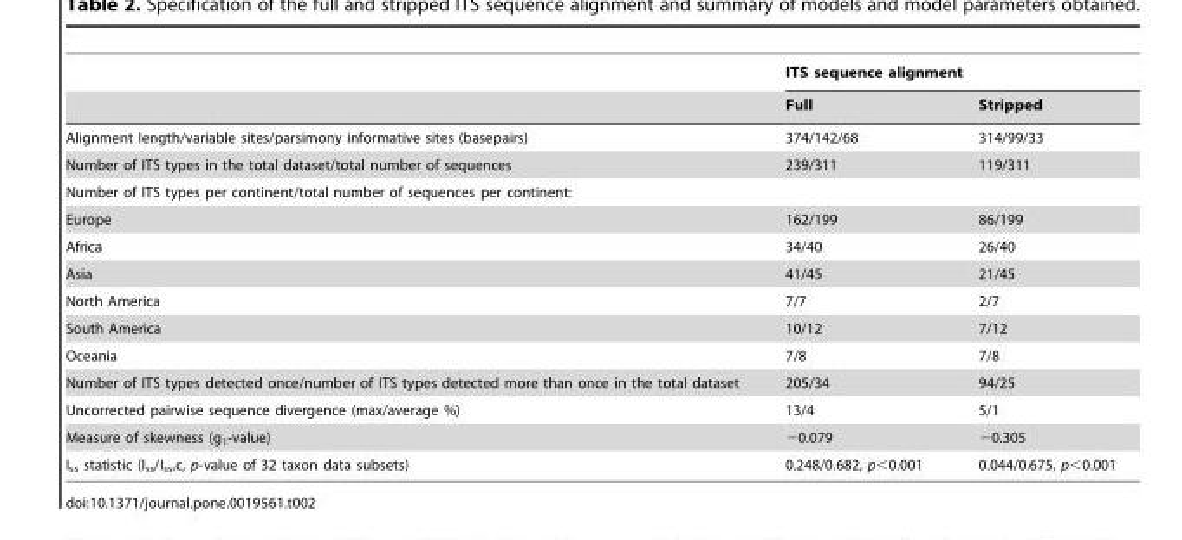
<table><thead><tr><td rowspan="2"></td><td colspan="2">ITS sequence alignment</td></tr><tr><td>Full</td><td>Stripped</td></tr></thead><tbody><tr><td>Alignment length/variable sites/parsimony informative sites (basepairs)</td><td>374/142/68</td><td>314/99/33</td></tr><tr><td>Number of ITS types in the total dataset/total number of sequences</td><td>239/311</td><td>119/311</td></tr><tr><td colspan="3">Number of ITS types per continent/total number of sequences per continent:</td></tr><tr><td>Europe</td><td>162/199</td><td>86/199</td></tr><tr><td>Africa</td><td>34/40</td><td>26/40</td></tr><tr><td>Asia</td><td>41/45</td><td>21/45</td></tr><tr><td>North America</td><td>7/7</td><td>2/7</td></tr><tr><td>South America</td><td>10/12</td><td>7/12</td></tr><tr><td>Oceania</td><td>7/8</td><td>7/8</td></tr><tr><td>Number of ITS types detected once/number of ITS types detected more than once in the total dataset</td><td>205/34</td><td>94/25</td></tr><tr><td>Uncorrected pairwise sequence divergence (max/average %)</td><td>13/4</td><td>5/1</td></tr><tr><td>Measure of skewness (g<sub>1</sub>-value)</td><td>−0.079</td><td>−0.305</td></tr><tr><td>I<sub>ss</sub> statistic (I<sub>ss</sub>/I<sub>ss</sub>.c, p-value of 32 taxon data subsets)</td><td>0.248/0.682, p&lt;0.001</td><td>0.044/0.675, p&lt;0.001</td></tr></tbody></table>